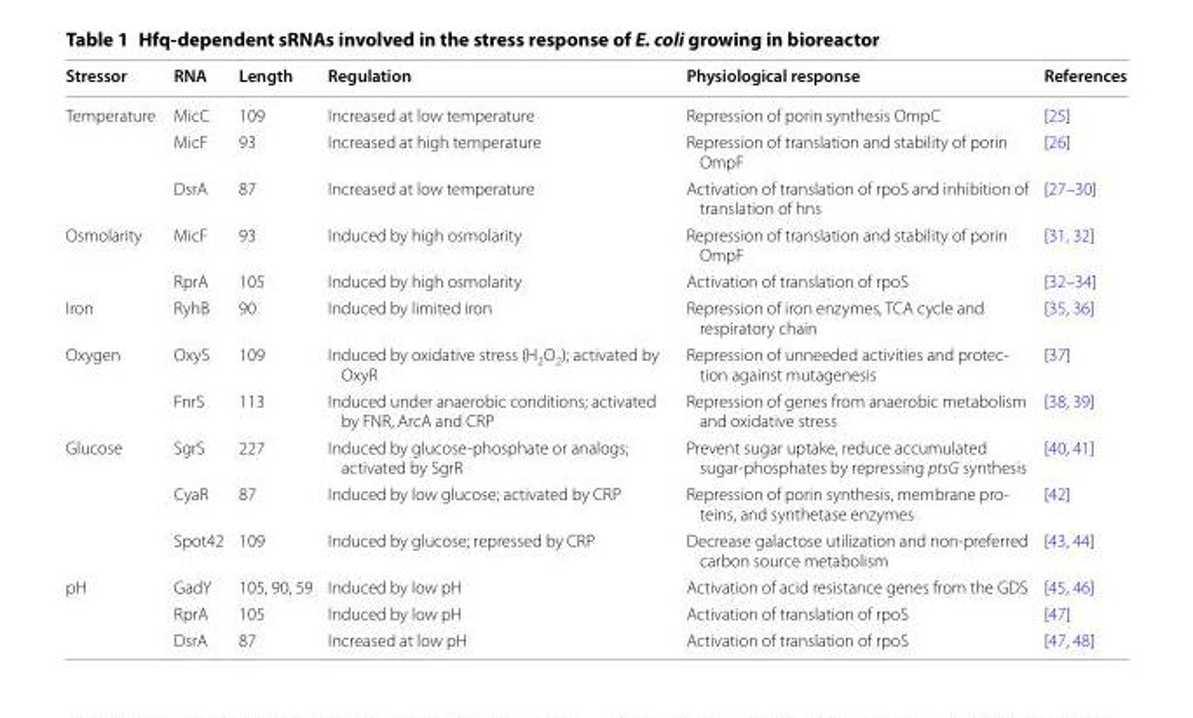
<table><thead><tr><td>Stressor</td><td>RNA</td><td>Length</td><td>Regulation</td><td>Physiological response</td><td>References</td></tr></thead><tbody><tr><td rowspan="3">Temperature</td><td>MicC</td><td>109</td><td>Increased at low temperature</td><td>Repression of porin synthesis OmpC</td><td>[25]</td></tr><tr><td>MicF</td><td>93</td><td>Increased at high temperature</td><td>Repression of translation and stability of porin OmpF</td><td>[26]</td></tr><tr><td>DsrA</td><td>87</td><td>Increased at low temperature</td><td>Activation of translation of rpoS and inhibition of translation of hns</td><td>[27–30]</td></tr><tr><td rowspan="2">Osmolarity</td><td>MicF</td><td>93</td><td>Induced by high osmolarity</td><td>Repression of translation and stability of porin OmpF</td><td>[31, 32]</td></tr><tr><td>RprA</td><td>105</td><td>Induced by high osmolarity</td><td>Activation of translation of rpoS</td><td>[32–34]</td></tr><tr><td>Iron</td><td>RyhB</td><td>90</td><td>Induced by limited iron</td><td>Repression of iron enzymes, TCA cycle and respiratory chain</td><td>[35, 36]</td></tr><tr><td rowspan="2">Oxygen</td><td>OxyS</td><td>109</td><td>Induced by oxidative stress (H<sub>2</sub>O<sub>2</sub>); activated by OxyR</td><td>Repression of unneeded activities and protec- tion against mutagenesis</td><td>[37]</td></tr><tr><td>FnrS</td><td>113</td><td>Induced under anaerobic conditions; activated by FNR, ArcA and CRP</td><td>Repression of genes from anaerobic metabolism and oxidative stress</td><td>[38, 39]</td></tr><tr><td rowspan="3">Glucose</td><td>SgrS</td><td>227</td><td>Induced by glucose-phosphate or analogs; activated by SgrR</td><td>Prevent sugar uptake, reduce accumulated sugar-phosphates by repressing ptsG synthesis</td><td>[40, 41]</td></tr><tr><td>CyaR</td><td>87</td><td>Induced by low glucose; activated by CRP</td><td>Repression of porin synthesis, membrane pro- teins, and synthetase enzymes</td><td>[42]</td></tr><tr><td>Spot42</td><td>109</td><td>Induced by glucose; repressed by CRP</td><td>Decrease galactose utilization and non-preferred carbon source metabolism</td><td>[43, 44]</td></tr><tr><td rowspan="3">pH</td><td>GadY</td><td>105, 90, 59</td><td>Induced by low pH</td><td>Activation of acid resistance genes from the GDS</td><td>[45, 46]</td></tr><tr><td>RprA</td><td>105</td><td>Induced by low pH</td><td>Activation of translation of rpoS</td><td>[47]</td></tr><tr><td>DsrA</td><td>87</td><td>Increased at low pH</td><td>Activation of translation of rpoS</td><td>[47, 48]</td></tr></tbody></table>